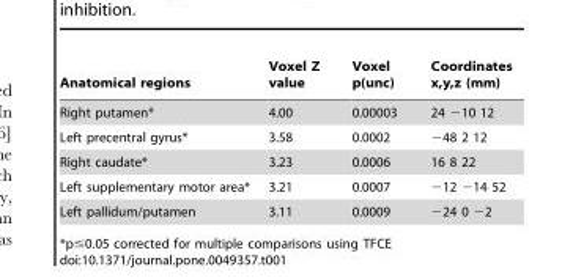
<table><thead><tr><td>Anatomical regions</td><td>Voxel Z value</td><td>Voxel p(unc)</td><td>Coordinates x,y,z (mm)</td></tr></thead><tbody><tr><td>Right putamen*</td><td>4.00</td><td>0.00003</td><td>24 −10 12</td></tr><tr><td>Left precentral gyrus*</td><td>3.58</td><td>0.0002</td><td>−48 2 12</td></tr><tr><td>Right caudate*</td><td>3.23</td><td>0.0006</td><td>16 8 22</td></tr><tr><td>Left supplementary motor area*</td><td>3.21</td><td>0.0007</td><td>−12 −14 52</td></tr><tr><td>Left pallidum/putamen</td><td>3.11</td><td>0.0009</td><td>−24 0 −2</td></tr></tbody></table>